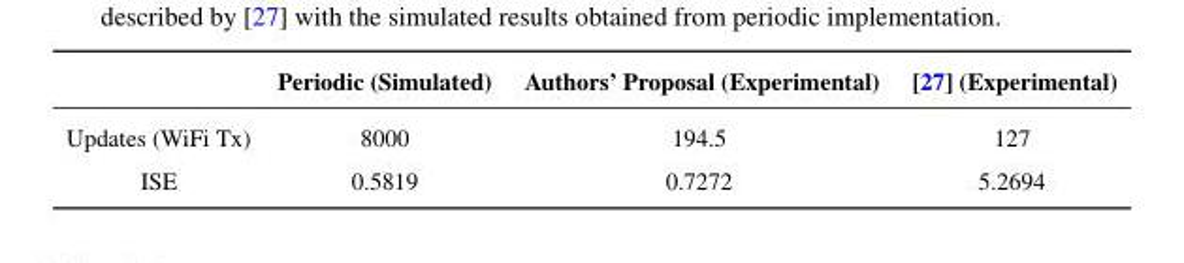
<table><thead><tr><td></td><td>Periodic (Simulated)</td><td>Authors’ Proposal (Experimental)</td><td>[27] (Experimental)</td></tr></thead><tbody><tr><td>Updates (WiFi Tx)</td><td>8000</td><td>194.5</td><td>127</td></tr><tr><td>ISE</td><td>0.5819</td><td>0.7272</td><td>5.2694</td></tr></tbody></table>